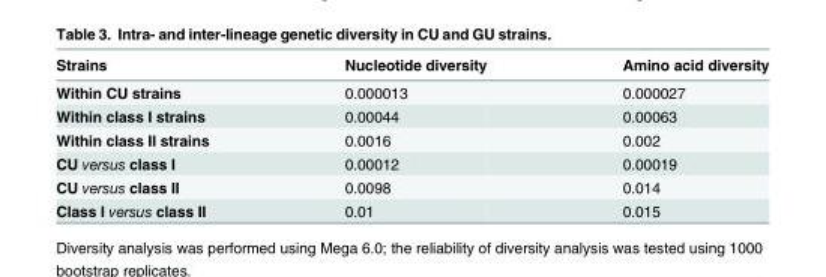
<table><thead><tr><td>Strains</td><td>Nucleotide diversity</td><td>Amino acid diversity</td></tr></thead><tbody><tr><td>Within CU strains</td><td>0.000013</td><td>0.000027</td></tr><tr><td>Within class I strains</td><td>0.00044</td><td>0.00063</td></tr><tr><td>Within class II strains</td><td>0.0016</td><td>0.002</td></tr><tr><td>CU versus class I</td><td>0.00012</td><td>0.00019</td></tr><tr><td>CU versus class II</td><td>0.0098</td><td>0.014</td></tr><tr><td>Class I versus class II</td><td>0.01</td><td>0.015</td></tr></tbody></table>